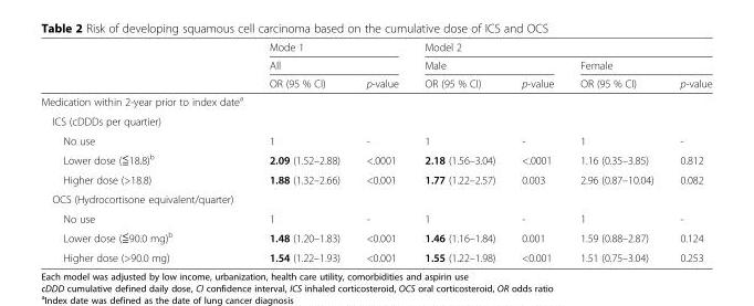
<table><thead><tr><td rowspan="3"></td><td rowspan="2" colspan="2">Mode 1 All</td><td colspan="4">Model 2</td></tr><tr><td colspan="2">Male</td><td colspan="2">Female</td></tr><tr><td>OR (95 % CI)</td><td>p-value</td><td>OR (95 % CI)</td><td>p-value</td><td>OR (95 % CI)</td><td>p-value</td></tr></thead><tbody><tr><td colspan="7">Medication within 2-year prior to index date<sup>a</sup></td></tr><tr><td colspan="7">ICS (cDDDs per quartier)</td></tr><tr><td>No use</td><td>1</td><td>-</td><td>1</td><td>-</td><td>1</td><td>-</td></tr><tr><td>Lower dose (≦18.8)<sup>b</sup></td><td>2.09 (1.52–2.88)</td><td>&lt;.0001</td><td>2.18 (1.56–3.04)</td><td>&lt;.0001</td><td>1.16 (0.35–3.85)</td><td>0.812</td></tr><tr><td>Higher dose (&gt;18.8)</td><td>1.88 (1.32–2.66)</td><td>&lt;0.001</td><td>1.77 (1.22–2.57)</td><td>0.003</td><td>2.96 (0.87–10.04)</td><td>0.082</td></tr><tr><td colspan="7">OCS (Hydrocortisone equivalent/quarter)</td></tr><tr><td>No use</td><td>1</td><td>-</td><td>1</td><td>-</td><td>1</td><td>-</td></tr><tr><td>Lower dose (≦90.0 mg)<sup>b</sup></td><td>1.48 (1.20–1.83)</td><td>&lt;0.001</td><td>1.46 (1.16–1.84)</td><td>0.001</td><td>1.59 (0.88–2.87)</td><td>0.124</td></tr><tr><td>Higher dose (&gt;90.0 mg)</td><td>1.54 (1.22–1.93)</td><td>&lt;0.001</td><td>1.55 (1.22–1.98)</td><td>&lt;0.001</td><td>1.51 (0.75–3.04)</td><td>0.253</td></tr></tbody></table>